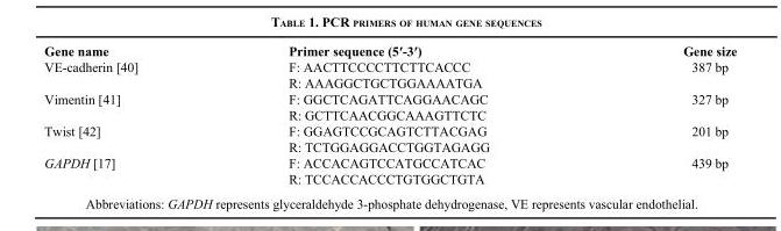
<table><thead><tr><td>Gene name</td><td>Primer sequence (5′-3′)</td><td>Gene size</td></tr></thead><tbody><tr><td rowspan="2">VE-cadherin [40]</td><td>F: AACTTCCCCTTCTTCACCC</td><td>387 bp</td></tr><tr><td>R: AAAGGCTGCTGGAAAATGA</td><td></td></tr><tr><td rowspan="2">Vimentin [41]</td><td>F: GGCTCAGATTCAGGAACAGC</td><td>327 bp</td></tr><tr><td>R: GCTTCAACGGCAAAGTTCTC</td><td></td></tr><tr><td rowspan="2">Twist [42]</td><td>F: GGAGTCCGCAGTCTTACGAG</td><td>201 bp</td></tr><tr><td>R: TCTGGAGGACCTGGTAGAGG</td><td></td></tr><tr><td rowspan="2">GAPDH [17]</td><td>F: ACCACAGTCCATGCCATCAC</td><td>439 bp</td></tr><tr><td>R: TCCACCACCCTGTGGCTGTA</td><td></td></tr></tbody></table>